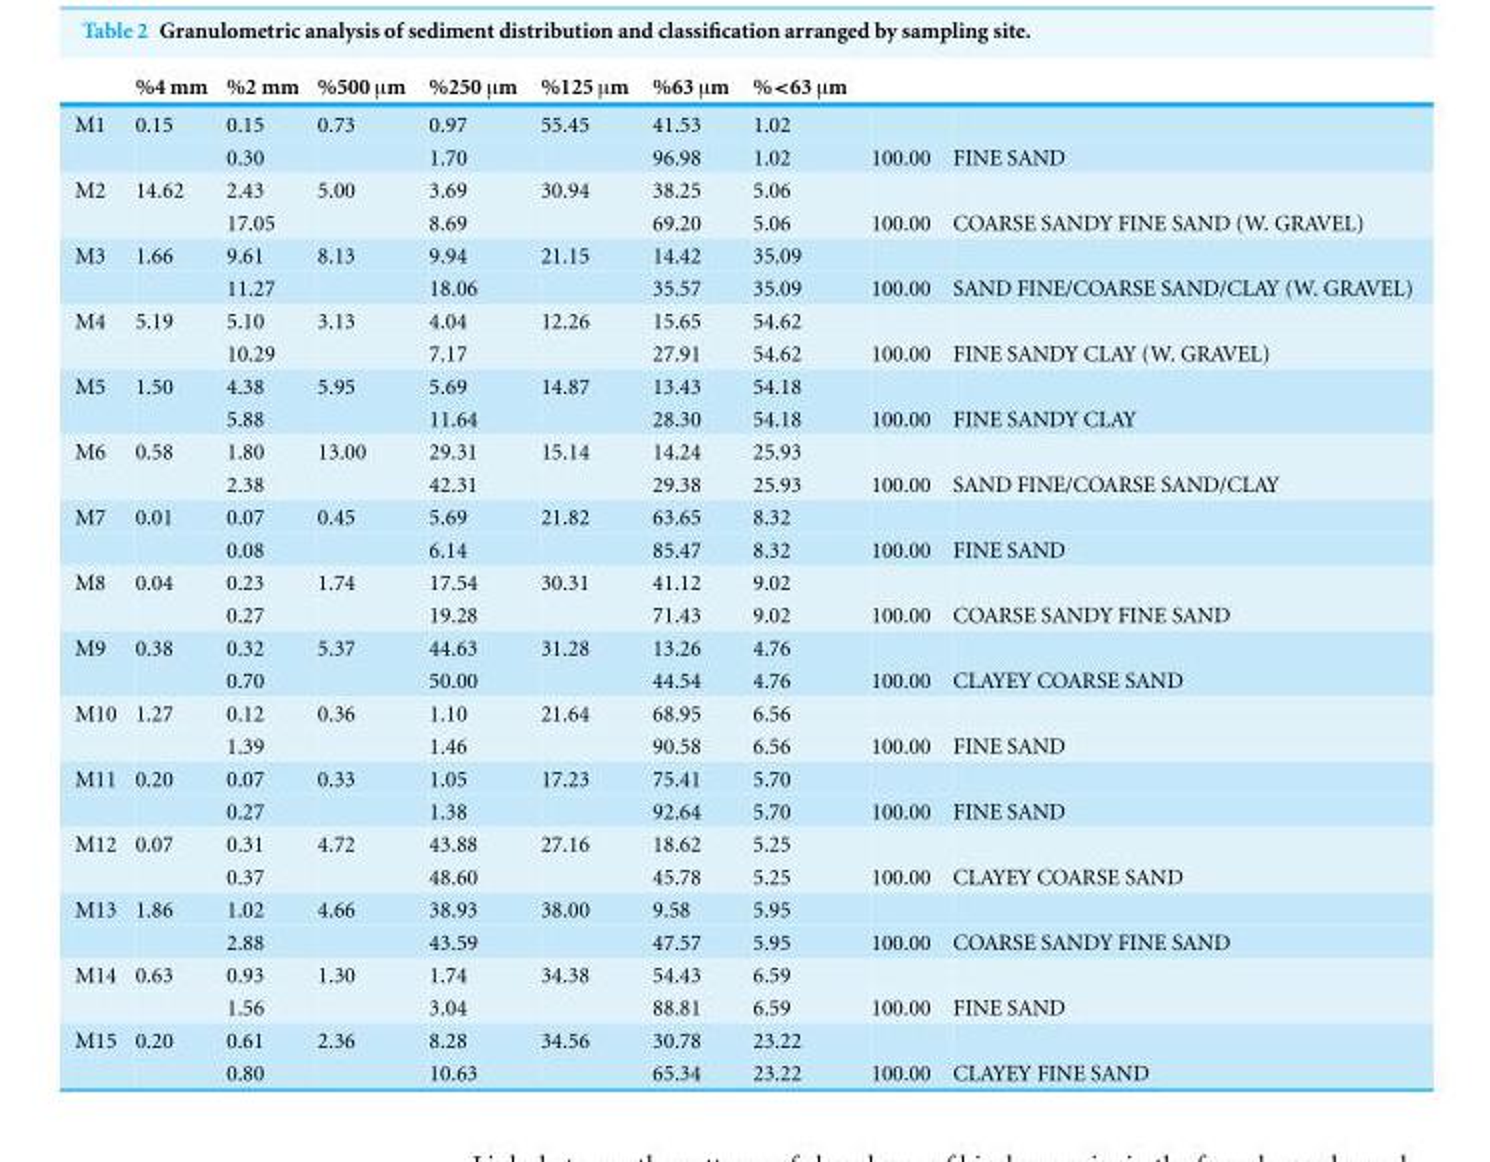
<table><thead><tr><td></td><td>%4 mm</td><td>%2 mm</td><td>%500 µm</td><td>%250 µm</td><td>%125 µm</td><td>%63 µm</td><td>%&lt;63 µm</td><td></td><td></td></tr></thead><tbody><tr><td rowspan="2">M1</td><td>0.15</td><td>0.15</td><td>0.73</td><td>0.97</td><td>55.45</td><td>41.53</td><td>1.02</td><td></td><td></td></tr><tr><td></td><td>0.30</td><td></td><td>1.70</td><td></td><td>96.98</td><td>1.02</td><td>100.00</td><td>FINE SAND</td></tr><tr><td rowspan="2">M2</td><td>14.62</td><td>2.43</td><td>5.00</td><td>3.69</td><td>30.94</td><td>38.25</td><td>5.06</td><td></td><td></td></tr><tr><td></td><td>17.05</td><td></td><td>8.69</td><td></td><td>69.20</td><td>5.06</td><td>100.00</td><td>COARSE SANDY FINE SAND (W. GRAVEL)</td></tr><tr><td rowspan="2">M3</td><td>1.66</td><td>9.61</td><td>8.13</td><td>9.94</td><td>21.15</td><td>14.42</td><td>35.09</td><td></td><td></td></tr><tr><td></td><td>11.27</td><td></td><td>18.06</td><td></td><td>35.57</td><td>35.09</td><td>100.00</td><td>SAND FINE/COARSE SAND/CLAY (W. GRAVEL)</td></tr><tr><td rowspan="2">M4</td><td>5.19</td><td>5.10</td><td>3.13</td><td>4.04</td><td>12.26</td><td>15.65</td><td>54.62</td><td></td><td></td></tr><tr><td></td><td>10.29</td><td></td><td>7.17</td><td></td><td>27.91</td><td>54.62</td><td>100.00</td><td>FINE SANDY CLAY (W. GRAVEL)</td></tr><tr><td rowspan="2">M5</td><td>1.50</td><td>4.38</td><td>5.95</td><td>5.69</td><td>14.87</td><td>13.43</td><td>54.18</td><td></td><td></td></tr><tr><td></td><td>5.88</td><td></td><td>11.64</td><td></td><td>28.30</td><td>54.18</td><td>100.00</td><td>FINE SANDY CLAY</td></tr><tr><td rowspan="2">M6</td><td>0.58</td><td>1.80</td><td>13.00</td><td>29.31</td><td>15.14</td><td>14.24</td><td>25.93</td><td></td><td></td></tr><tr><td></td><td>2.38</td><td></td><td>42.31</td><td></td><td>29.38</td><td>25.93</td><td>100.00</td><td>SAND FINE/COARSE SAND/CLAY</td></tr><tr><td rowspan="2">M7</td><td>0.01</td><td>0.07</td><td>0.45</td><td>5.69</td><td>21.82</td><td>63.65</td><td>8.32</td><td></td><td></td></tr><tr><td></td><td>0.08</td><td></td><td>6.14</td><td></td><td>85.47</td><td>8.32</td><td>100.00</td><td>FINE SAND</td></tr><tr><td rowspan="2">M8</td><td>0.04</td><td>0.23</td><td>1.74</td><td>17.54</td><td>30.31</td><td>41.12</td><td>9.02</td><td></td><td></td></tr><tr><td></td><td>0.27</td><td></td><td>19.28</td><td></td><td>71.43</td><td>9.02</td><td>100.00</td><td>COARSE SANDY FINE SAND</td></tr><tr><td rowspan="2">M9</td><td>0.38</td><td>0.32</td><td>5.37</td><td>44.63</td><td>31.28</td><td>13.26</td><td>4.76</td><td></td><td></td></tr><tr><td></td><td>0.70</td><td></td><td>50.00</td><td></td><td>44.54</td><td>4.76</td><td>100.00</td><td>CLAYEY COARSE SAND</td></tr><tr><td rowspan="2">M10</td><td>1.27</td><td>0.12</td><td>0.36</td><td>1.10</td><td>21.64</td><td>68.95</td><td>6.56</td><td></td><td></td></tr><tr><td></td><td>1.39</td><td></td><td>1.46</td><td></td><td>90.58</td><td>6.56</td><td>100.00</td><td>FINE SAND</td></tr><tr><td rowspan="2">M11</td><td>0.20</td><td>0.07</td><td>0.33</td><td>1.05</td><td>17.23</td><td>75.41</td><td>5.70</td><td></td><td></td></tr><tr><td></td><td>0.27</td><td></td><td>1.38</td><td></td><td>92.64</td><td>5.70</td><td>100.00</td><td>FINE SAND</td></tr><tr><td rowspan="2">M12</td><td>0.07</td><td>0.31</td><td>4.72</td><td>43.88</td><td>27.16</td><td>18.62</td><td>5.25</td><td></td><td></td></tr><tr><td></td><td>0.37</td><td></td><td>48.60</td><td></td><td>45.78</td><td>5.25</td><td>100.00</td><td>CLAYEY COARSE SAND</td></tr><tr><td rowspan="2">M13</td><td>1.86</td><td>1.02</td><td>4.66</td><td>38.93</td><td>38.00</td><td>9.58</td><td>5.95</td><td></td><td></td></tr><tr><td></td><td>2.88</td><td></td><td>43.59</td><td></td><td>47.57</td><td>5.95</td><td>100.00</td><td>COARSE SANDY FINE SAND</td></tr><tr><td rowspan="2">M14</td><td>0.63</td><td>0.93</td><td>1.30</td><td>1.74</td><td>34.38</td><td>54.43</td><td>6.59</td><td></td><td></td></tr><tr><td></td><td>1.56</td><td></td><td>3.04</td><td></td><td>88.81</td><td>6.59</td><td>100.00</td><td>FINE SAND</td></tr><tr><td rowspan="2">M15</td><td>0.20</td><td>0.61</td><td>2.36</td><td>8.28</td><td>34.56</td><td>30.78</td><td>23.22</td><td></td><td></td></tr><tr><td></td><td>0.80</td><td></td><td>10.63</td><td></td><td>65.34</td><td>23.22</td><td>100.00</td><td>CLAYEY FINE SAND</td></tr></tbody></table>